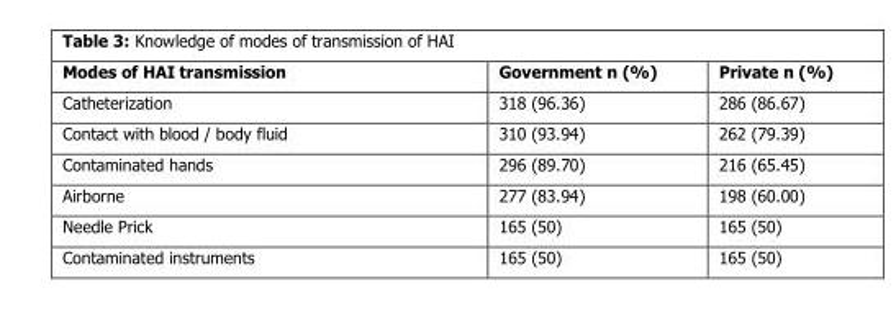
<table><thead><tr><td>Modes of HAI transmission</td><td>Government n (%)</td><td>Private n (%)</td></tr></thead><tbody><tr><td>Catheterization</td><td>318 (96.36)</td><td>286 (86.67)</td></tr><tr><td>Contact with blood / body fluid</td><td>310 (93.94)</td><td>262 (79.39)</td></tr><tr><td>Contaminated hands</td><td>296 (89.70)</td><td>216 (65.45)</td></tr><tr><td>Airborne</td><td>277 (83.94)</td><td>198 (60.00)</td></tr><tr><td>Needle Prick</td><td>165 (50)</td><td>165 (50)</td></tr><tr><td>Contaminated instruments</td><td>165 (50)</td><td>165 (50)</td></tr></tbody></table>